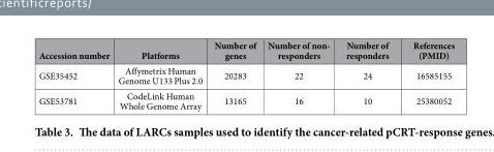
<table><thead><tr><td>Accession number</td><td>Platforms</td><td>Number of genes</td><td>Number of non- responders</td><td>Number of responders</td><td>References (PMID)</td></tr></thead><tbody><tr><td>GSE35452</td><td>Affymetrix Human Genome U133 Plus 2.0</td><td>20283</td><td>22</td><td>24</td><td>16585155</td></tr><tr><td>GSE53781</td><td>CodeLink Human Whole Genome Array</td><td>13165</td><td>16</td><td>10</td><td>25380052</td></tr></tbody></table>